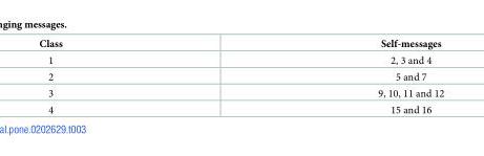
<table><thead><tr><td>Class</td><td>Self-messages</td></tr></thead><tbody><tr><td>1</td><td>2, 3 and 4</td></tr><tr><td>2</td><td>5 and 7</td></tr><tr><td>3</td><td>9, 10, 11 and 12</td></tr><tr><td>4</td><td>15 and 16</td></tr></tbody></table>